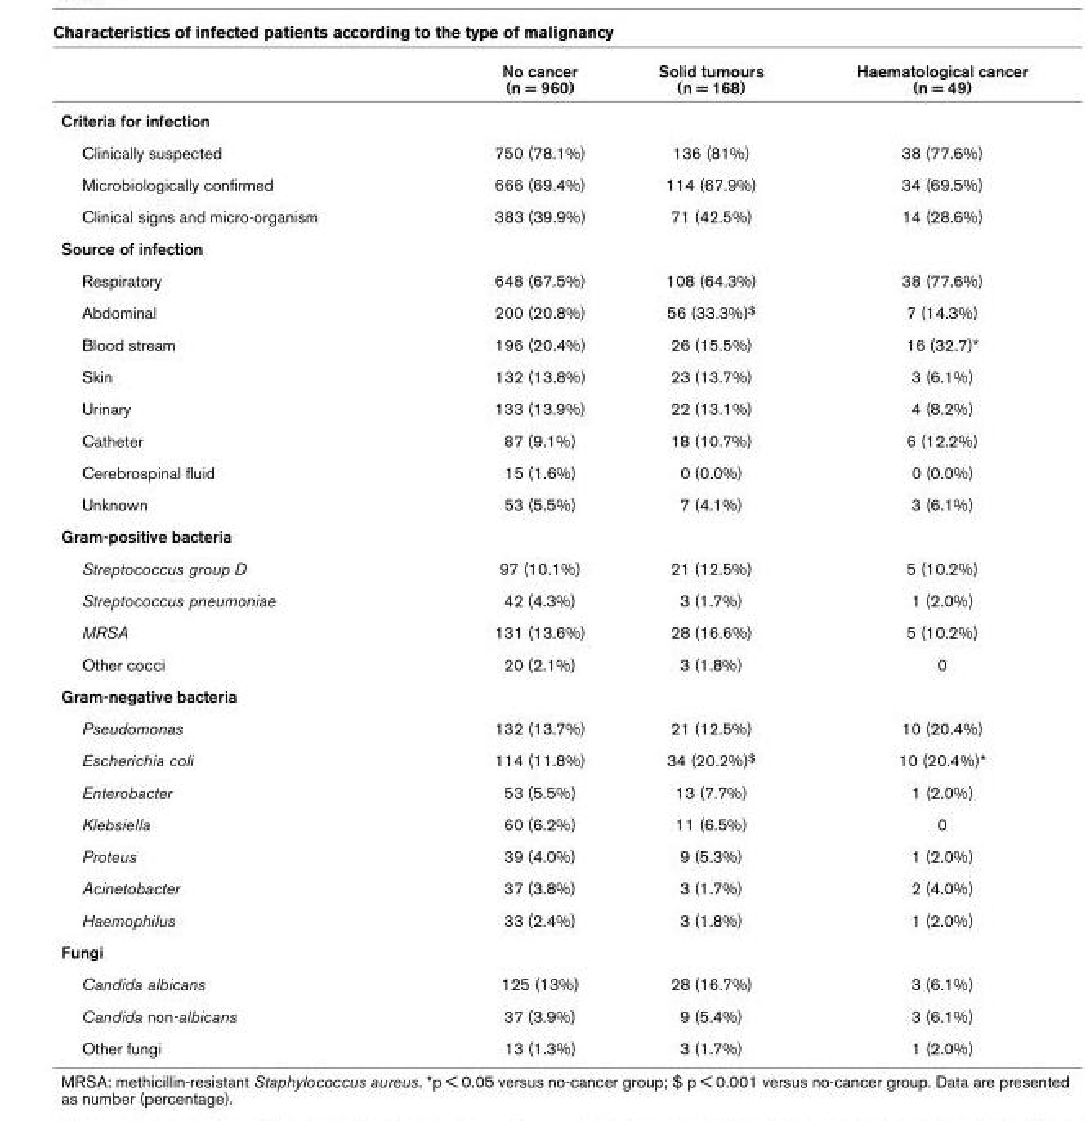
<table><thead><tr><td></td><td>No cancer (n = 960)</td><td>Solid tumours (n = 168)</td><td>Haematological cancer (n = 49)</td></tr></thead><tbody><tr><td colspan="4">Criteria for infection</td></tr><tr><td>Clinically suspected</td><td>750 (78.1%)</td><td>136 (81%)</td><td>38 (77.6%)</td></tr><tr><td>Microbiologically confirmed</td><td>666 (69.4%)</td><td>114 (67.9%)</td><td>34 (69.5%)</td></tr><tr><td>Clinical signs and micro-organism</td><td>383 (39.9%)</td><td>71 (42.5%)</td><td>14 (28.6%)</td></tr><tr><td colspan="4">Source of infection</td></tr><tr><td>Respiratory</td><td>648 (67.5%)</td><td>108 (64.3%)</td><td>38 (77.6%)</td></tr><tr><td>Abdominal</td><td>200 (20.8%)</td><td>56 (33.3%)<sup>$</sup></td><td>7 (14.3%)</td></tr><tr><td>Blood stream</td><td>196 (20.4%)</td><td>26 (15.5%)</td><td>16 (32.7)*</td></tr><tr><td>Skin</td><td>132 (13.8%)</td><td>23 (13.7%)</td><td>3 (6.1%)</td></tr><tr><td>Urinary</td><td>133 (13.9%)</td><td>22 (13.1%)</td><td>4 (8.2%)</td></tr><tr><td>Catheter</td><td>87 (9.1%)</td><td>18 (10.7%)</td><td>6 (12.2%)</td></tr><tr><td>Cerebrospinal fluid</td><td>15 (1.6%)</td><td>0 (0.0%)</td><td>0 (0.0%)</td></tr><tr><td>Unknown</td><td>53 (5.5%)</td><td>7 (4.1%)</td><td>3 (6.1%)</td></tr><tr><td colspan="4">Gram-positive bacteria</td></tr><tr><td>Streptococcus group D</td><td>97 (10.1%)</td><td>21 (12.5%)</td><td>5 (10.2%)</td></tr><tr><td>Streptococcus pneumoniae</td><td>42 (4.3%)</td><td>3 (1.7%)</td><td>1 (2.0%)</td></tr><tr><td>MRSA</td><td>131 (13.6%)</td><td>28 (16.6%)</td><td>5 (10.2%)</td></tr><tr><td>Other cocci</td><td>20 (2.1%)</td><td>3 (1.8%)</td><td>0</td></tr><tr><td colspan="4">Gram-negative bacteria</td></tr><tr><td>Pseudomonas</td><td>132 (13.7%)</td><td>21 (12.5%)</td><td>10 (20.4%)</td></tr><tr><td>Escherichia coli</td><td>114 (11.8%)</td><td>34 (20.2%)<sup>$</sup></td><td>10 (20.4%)*</td></tr><tr><td>Enterobacter</td><td>53 (5.5%)</td><td>13 (7.7%)</td><td>1 (2.0%)</td></tr><tr><td>Klebsiella</td><td>60 (6.2%)</td><td>11 (6.5%)</td><td>0</td></tr><tr><td>Proteus</td><td>39 (4.0%)</td><td>9 (5.3%)</td><td>1 (2.0%)</td></tr><tr><td>Acinetobacter</td><td>37 (3.8%)</td><td>3 (1.7%)</td><td>2 (4.0%)</td></tr><tr><td>Haemophilus</td><td>33 (2.4%)</td><td>3 (1.8%)</td><td>1 (2.0%)</td></tr><tr><td colspan="4">Fungi</td></tr><tr><td>Candida albicans</td><td>125 (13%)</td><td>28 (16.7%)</td><td>3 (6.1%)</td></tr><tr><td>Candida non-albicans</td><td>37 (3.9%)</td><td>9 (5.4%)</td><td>3 (6.1%)</td></tr><tr><td>Other fungi</td><td>13 (1.3%)</td><td>3 (1.7%)</td><td>1 (2.0%)</td></tr></tbody></table>